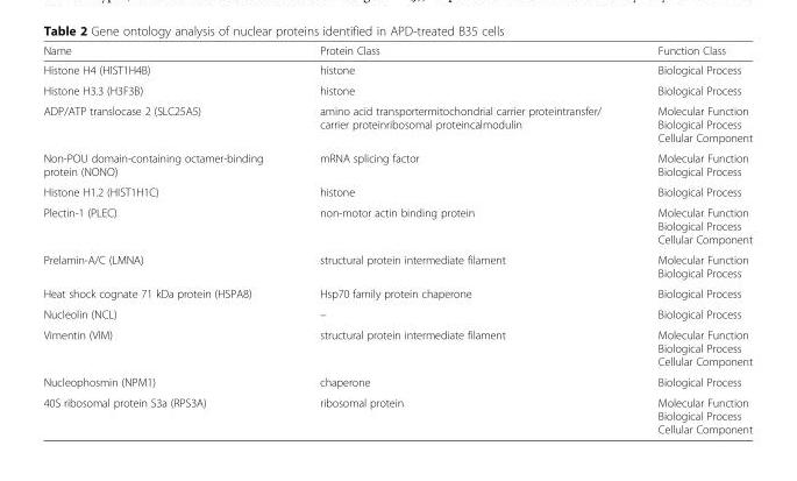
<table><thead><tr><td>Name</td><td>Protein Class</td><td>Function Class</td></tr></thead><tbody><tr><td>Histone H4 (HIST1H4B)</td><td>histone</td><td>Biological Process</td></tr><tr><td>Histone H3.3 (H3F3B)</td><td>histone</td><td>Biological Process</td></tr><tr><td>ADP/ATP translocase 2 (SLC25A5)</td><td>amino acid transportermitochondrial carrier proteintransfer/ carrier proteinribosomal proteincalmodulin</td><td>Molecular Function Biological Process Cellular Component</td></tr><tr><td>Non-POU domain-containing octamer-binding protein (NONO)</td><td>mRNA splicing factor</td><td>Molecular Function Biological Process</td></tr><tr><td>Histone H1.2 (HIST1H1C)</td><td>histone</td><td>Biological Process</td></tr><tr><td>Plectin-1 (PLEC)</td><td>non-motor actin binding protein</td><td>Molecular Function Biological Process Cellular Component</td></tr><tr><td>Prelamin-A/C (LMNA)</td><td>structural protein intermediate filament</td><td>Molecular Function Biological Process</td></tr><tr><td>Heat shock cognate 71 kDa protein (HSPA8)</td><td>Hsp70 family protein chaperone</td><td>Biological Process</td></tr><tr><td>Nucleolin (NCL)</td><td>–</td><td>Biological Process</td></tr><tr><td>Vimentin (VIM)</td><td>structural protein intermediate filament</td><td>Molecular Function Biological Process Cellular Component</td></tr><tr><td>Nucleophosmin (NPM1)</td><td>chaperone</td><td>Biological Process</td></tr><tr><td>40S ribosomal protein S3a (RPS3A)</td><td>ribosomal protein</td><td>Molecular Function Biological Process Cellular Component</td></tr></tbody></table>